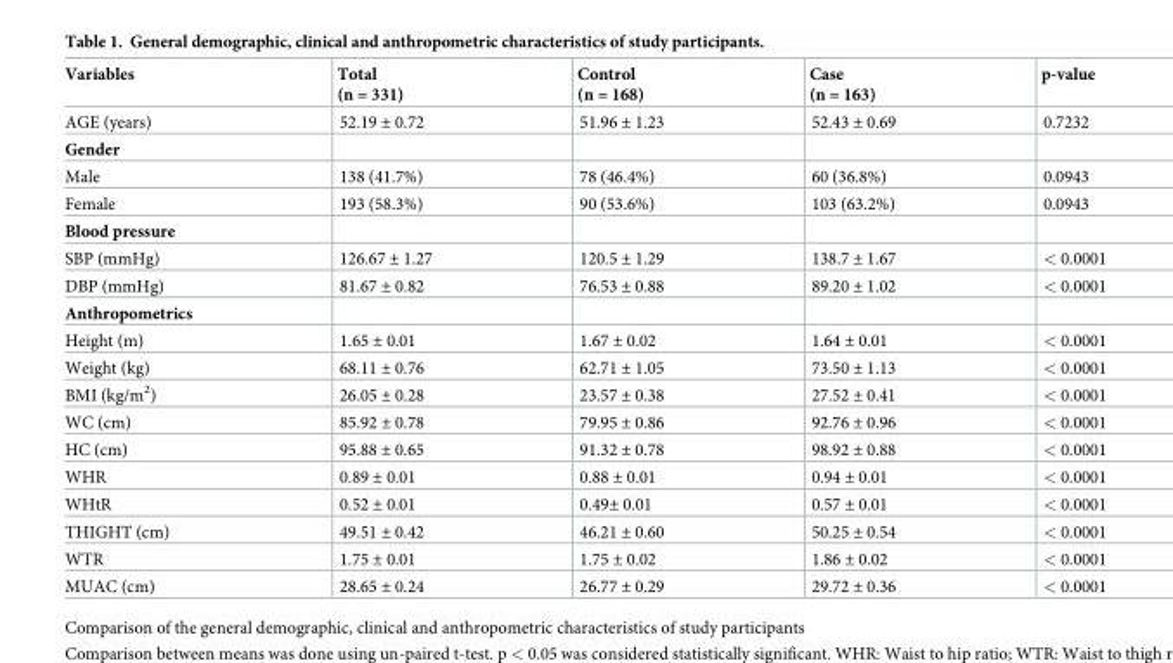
<table><thead><tr><td>Variables</td><td>Total (n = 331)</td><td>Control (n = 168)</td><td>Case (n = 163)</td><td>p-value</td></tr></thead><tbody><tr><td>AGE (years)</td><td>52.19 ± 0.72</td><td>51.96 ± 1.23</td><td>52.43 ± 0.69</td><td>0.7232</td></tr><tr><td colspan="5">Gender</td></tr><tr><td>Male</td><td>138 (41.7%)</td><td>78 (46.4%)</td><td>60 (36.8%)</td><td>0.0943</td></tr><tr><td>Female</td><td>193 (58.3%)</td><td>90 (53.6%)</td><td>103 (63.2%)</td><td>0.0943</td></tr><tr><td colspan="5">Blood pressure</td></tr><tr><td>SBP (mmHg)</td><td>126.67 ± 1.27</td><td>120.5 ± 1.29</td><td>138.7 ± 1.67</td><td>&lt; 0.0001</td></tr><tr><td>DBP (mmHg)</td><td>81.67 ± 0.82</td><td>76.53 ± 0.88</td><td>89.20 ± 1.02</td><td>&lt; 0.0001</td></tr><tr><td colspan="5">Anthropometrics</td></tr><tr><td>Height (m)</td><td>1.65 ± 0.01</td><td>1.67 ± 0.02</td><td>1.64 ± 0.01</td><td>&lt; 0.0001</td></tr><tr><td>Weight (kg)</td><td>68.11 ± 0.76</td><td>62.71 ± 1.05</td><td>73.50 ± 1.13</td><td>&lt; 0.0001</td></tr><tr><td>BMI (kg/m<sup>2</sup>)</td><td>26.05 ± 0.28</td><td>23.57 ± 0.38</td><td>27.52 ± 0.41</td><td>&lt; 0.0001</td></tr><tr><td>WC (cm)</td><td>85.92 ± 0.78</td><td>79.95 ± 0.86</td><td>92.76 ± 0.96</td><td>&lt; 0.0001</td></tr><tr><td>HC (cm)</td><td>95.88 ± 0.65</td><td>91.32 ± 0.78</td><td>98.92 ± 0.88</td><td>&lt; 0.0001</td></tr><tr><td>WHR</td><td>0.89 ± 0.01</td><td>0.88 ± 0.01</td><td>0.94 ± 0.01</td><td>&lt; 0.0001</td></tr><tr><td>WHtR</td><td>0.52 ± 0.01</td><td>0.49± 0.01</td><td>0.57 ± 0.01</td><td>&lt; 0.0001</td></tr><tr><td>THIGHT (cm)</td><td>49.51 ± 0.42</td><td>46.21 ± 0.60</td><td>50.25 ± 0.54</td><td>&lt; 0.0001</td></tr><tr><td>WTR</td><td>1.75 ± 0.01</td><td>1.75 ± 0.02</td><td>1.86 ± 0.02</td><td>&lt; 0.0001</td></tr><tr><td>MUAC (cm)</td><td>28.65 ± 0.24</td><td>26.77 ± 0.29</td><td>29.72 ± 0.36</td><td>&lt; 0.0001</td></tr></tbody></table>